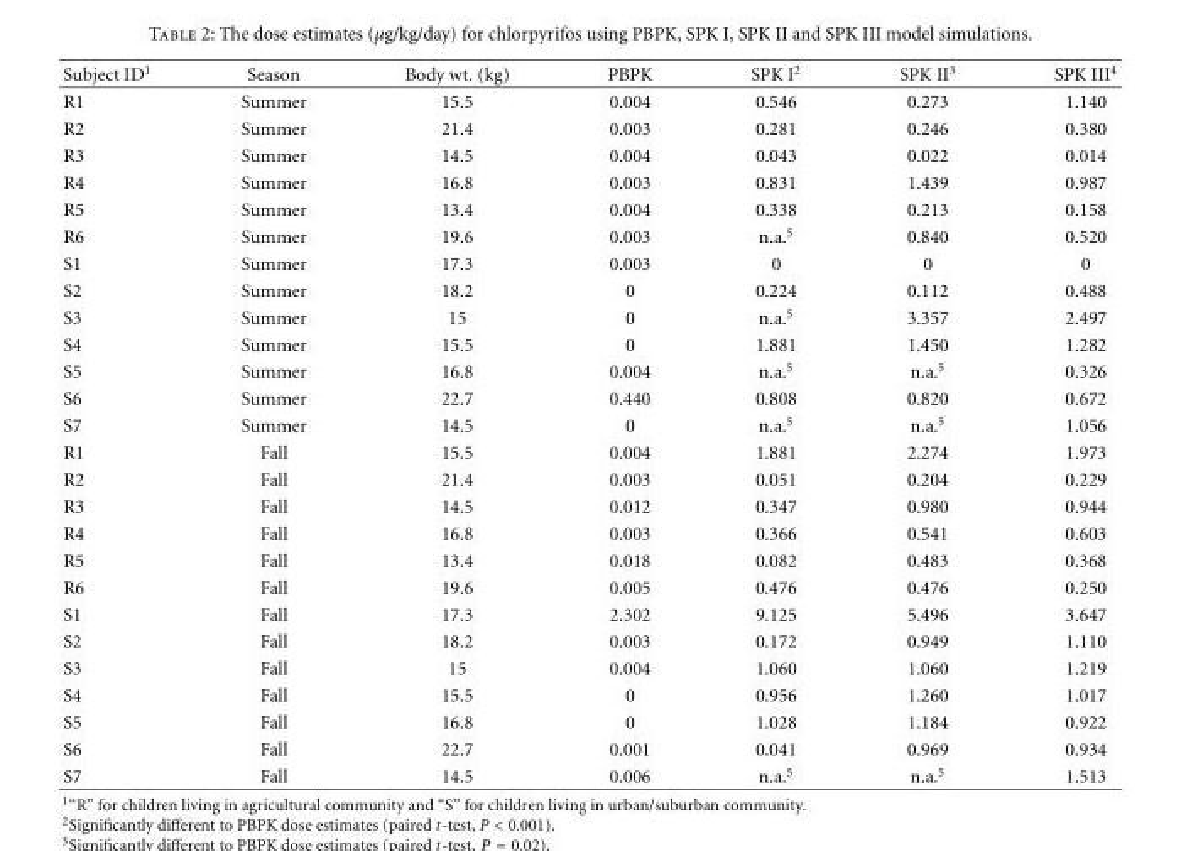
<table><thead><tr><td>Subject ID<sup>1</sup></td><td>Season</td><td>Body wt. (kg)</td><td>PBPK</td><td>SPK I<sup>2</sup></td><td>SPK II<sup>3</sup></td><td>SPK III<sup>4</sup></td></tr></thead><tbody><tr><td>R1</td><td>Summer</td><td>15.5</td><td>0.004</td><td>0.546</td><td>0.273</td><td>1.140</td></tr><tr><td>R2</td><td>Summer</td><td>21.4</td><td>0.003</td><td>0.281</td><td>0.246</td><td>0.380</td></tr><tr><td>R3</td><td>Summer</td><td>14.5</td><td>0.004</td><td>0.043</td><td>0.022</td><td>0.014</td></tr><tr><td>R4</td><td>Summer</td><td>16.8</td><td>0.003</td><td>0.831</td><td>1.439</td><td>0.987</td></tr><tr><td>R5</td><td>Summer</td><td>13.4</td><td>0.004</td><td>0.338</td><td>0.213</td><td>0.158</td></tr><tr><td>R6</td><td>Summer</td><td>19.6</td><td>0.003</td><td>n.a.<sup>5</sup></td><td>0.840</td><td>0.520</td></tr><tr><td>S1</td><td>Summer</td><td>17.3</td><td>0.003</td><td>0</td><td>0</td><td>0</td></tr><tr><td>S2</td><td>Summer</td><td>18.2</td><td>0</td><td>0.224</td><td>0.112</td><td>0.488</td></tr><tr><td>S3</td><td>Summer</td><td>15</td><td>0</td><td>n.a.<sup>5</sup></td><td>3.357</td><td>2.497</td></tr><tr><td>S4</td><td>Summer</td><td>15.5</td><td>0</td><td>1.881</td><td>1.450</td><td>1.282</td></tr><tr><td>S5</td><td>Summer</td><td>16.8</td><td>0.004</td><td>n.a.<sup>5</sup></td><td>n.a.<sup>5</sup></td><td>0.326</td></tr><tr><td>S6</td><td>Summer</td><td>22.7</td><td>0.440</td><td>0.808</td><td>0.820</td><td>0.672</td></tr><tr><td>S7</td><td>Summer</td><td>14.5</td><td>0</td><td>n.a.<sup>5</sup></td><td>n.a.<sup>5</sup></td><td>1.056</td></tr><tr><td>R1</td><td>Fall</td><td>15.5</td><td>0.004</td><td>1.881</td><td>2.274</td><td>1.973</td></tr><tr><td>R2</td><td>Fall</td><td>21.4</td><td>0.003</td><td>0.051</td><td>0.204</td><td>0.229</td></tr><tr><td>R3</td><td>Fall</td><td>14.5</td><td>0.012</td><td>0.347</td><td>0.980</td><td>0.944</td></tr><tr><td>R4</td><td>Fall</td><td>16.8</td><td>0.003</td><td>0.366</td><td>0.541</td><td>0.603</td></tr><tr><td>R5</td><td>Fall</td><td>13.4</td><td>0.018</td><td>0.082</td><td>0.483</td><td>0.368</td></tr><tr><td>R6</td><td>Fall</td><td>19.6</td><td>0.005</td><td>0.476</td><td>0.476</td><td>0.250</td></tr><tr><td>S1</td><td>Fall</td><td>17.3</td><td>2.302</td><td>9.125</td><td>5.496</td><td>3.647</td></tr><tr><td>S2</td><td>Fall</td><td>18.2</td><td>0.003</td><td>0.172</td><td>0.949</td><td>1.110</td></tr><tr><td>S3</td><td>Fall</td><td>15</td><td>0.004</td><td>1.060</td><td>1.060</td><td>1.219</td></tr><tr><td>S4</td><td>Fall</td><td>15.5</td><td>0</td><td>0.956</td><td>1.260</td><td>1.017</td></tr><tr><td>S5</td><td>Fall</td><td>16.8</td><td>0</td><td>1.028</td><td>1.184</td><td>0.922</td></tr><tr><td>S6</td><td>Fall</td><td>22.7</td><td>0.001</td><td>0.041</td><td>0.969</td><td>0.934</td></tr><tr><td>S7</td><td>Fall</td><td>14.5</td><td>0.006</td><td>n.a.<sup>5</sup></td><td>n.a.<sup>5</sup></td><td>1.513</td></tr></tbody></table>